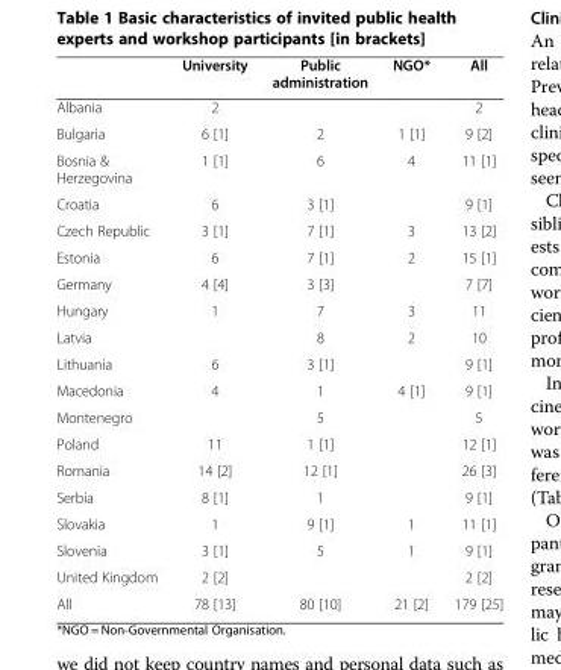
<table><thead><tr><td></td><td>University</td><td>Public administration</td><td>NGO*</td><td>All</td></tr></thead><tbody><tr><td>Albania</td><td>2</td><td></td><td></td><td>2</td></tr><tr><td>Bulgaria</td><td>6 [1]</td><td>2</td><td>1 [1]</td><td>9 [2]</td></tr><tr><td>Bosnia &amp; Herzegovina</td><td>1 [1]</td><td>6</td><td>4</td><td>11 [1]</td></tr><tr><td>Croatia</td><td>6</td><td>3 [1]</td><td></td><td>9 [1]</td></tr><tr><td>Czech Republic</td><td>3 [1]</td><td>7 [1]</td><td>3</td><td>13 [2]</td></tr><tr><td>Estonia</td><td>6</td><td>7 [1]</td><td>2</td><td>15 [1]</td></tr><tr><td>Germany</td><td>4 [4]</td><td>3 [3]</td><td></td><td>7 [7]</td></tr><tr><td>Hungary</td><td>1</td><td>7</td><td>3</td><td>11</td></tr><tr><td>Latvia</td><td></td><td>8</td><td>2</td><td>10</td></tr><tr><td>Lithuania</td><td>6</td><td>3 [1]</td><td></td><td>9 [1]</td></tr><tr><td>Macedonia</td><td>4</td><td>1</td><td>4 [1]</td><td>9 [1]</td></tr><tr><td>Montenegro</td><td></td><td>5</td><td></td><td>5</td></tr><tr><td>Poland</td><td>11</td><td>1 [1]</td><td></td><td>12 [1]</td></tr><tr><td>Romania</td><td>14 [2]</td><td>12 [1]</td><td></td><td>26 [3]</td></tr><tr><td>Serbia</td><td>8 [1]</td><td>1</td><td></td><td>9 [1]</td></tr><tr><td>Slovakia</td><td>1</td><td>9 [1]</td><td>1</td><td>11 [1]</td></tr><tr><td>Slovenia</td><td>3 [1]</td><td>5</td><td>1</td><td>9 [1]</td></tr><tr><td>United Kingdom</td><td>2 [2]</td><td></td><td></td><td>2 [2]</td></tr><tr><td>All</td><td>78 [13]</td><td>80 [10]</td><td>21 [2]</td><td>179 [25]</td></tr></tbody></table>